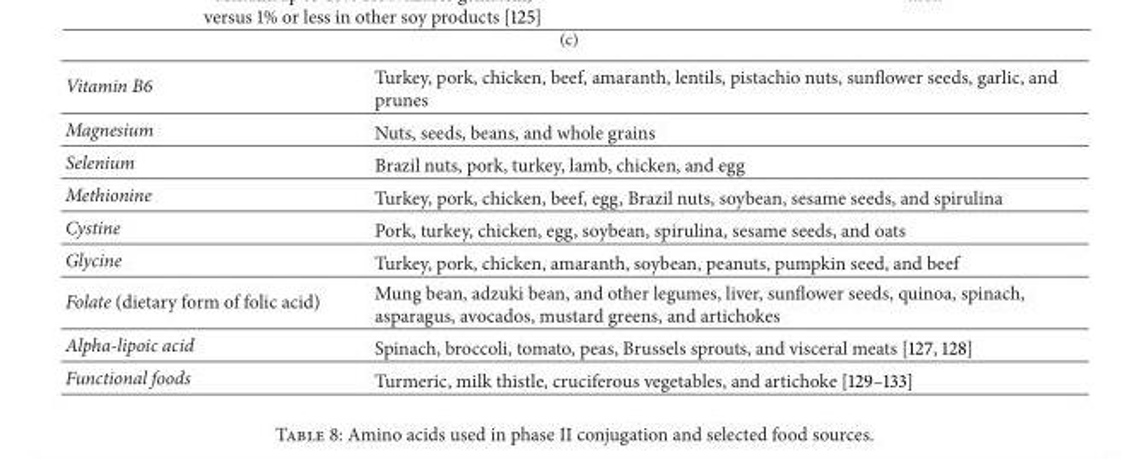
<table><tbody><tr><td>Vitamin B6</td><td>Turkey, pork, chicken, beef, amaranth, lentils, pistachio nuts, sunflower seeds, garlic, and prunes</td></tr><tr><td>Magnesium</td><td>Nuts, seeds, beans, and whole grains</td></tr><tr><td>Selenium</td><td>Brazil nuts, pork, turkey, lamb, chicken, and egg</td></tr><tr><td>Methionine</td><td>Turkey, pork, chicken, beef, egg, Brazil nuts, soybean, sesame seeds, and spirulina</td></tr><tr><td>Cystine</td><td>Pork, turkey, chicken, egg, soybean, spirulina, sesame seeds, and oats</td></tr><tr><td>Glycine</td><td>Turkey, pork, chicken, amaranth, soybean, peanuts, pumpkin seed, and beef</td></tr><tr><td>Folate (dietary form of folic acid)</td><td>Mung bean, adzuki bean, and other legumes, liver, sunflower seeds, quinoa, spinach, asparagus, avocados, mustard greens, and artichokes</td></tr><tr><td>Alpha-lipoic acid</td><td>Spinach, broccoli, tomato, peas, Brussels sprouts, and visceral meats [127, 128]</td></tr><tr><td>Functional foods</td><td>Turmeric, milk thistle, cruciferous vegetables, and artichoke [129–133]</td></tr></tbody></table>